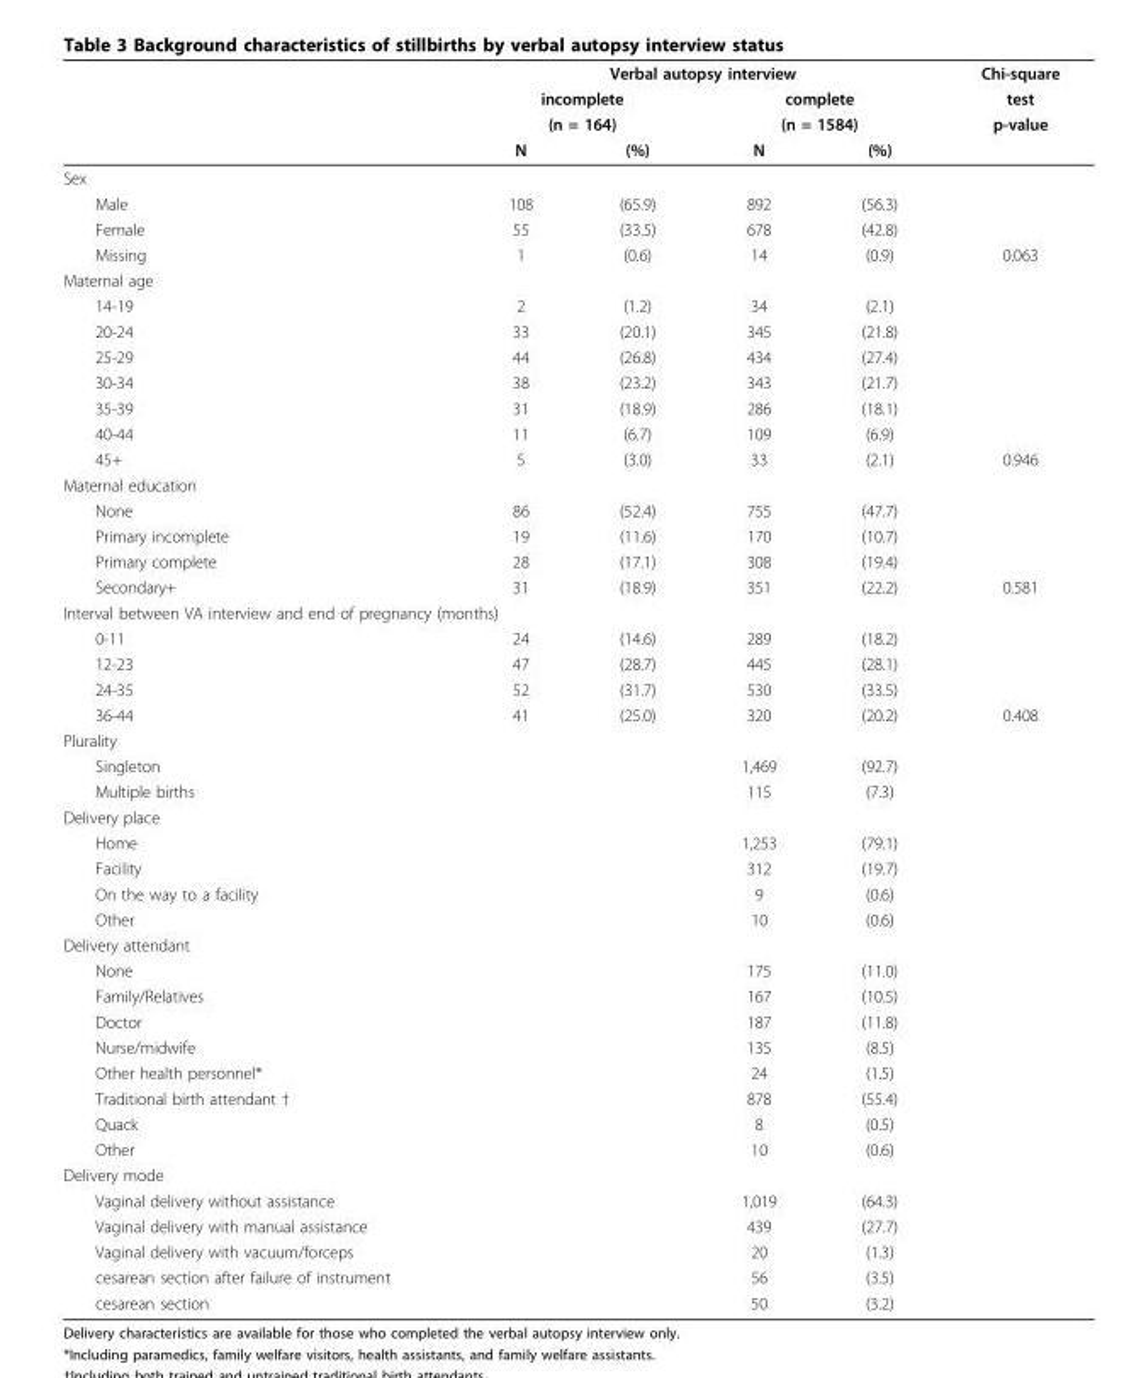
<table><thead><tr><td rowspan="4"></td><td colspan="4">Verbal autopsy interview</td><td rowspan="4">Chi-square test p-value</td></tr><tr><td rowspan="2" colspan="2">incomplete (n = 164)</td><td rowspan="2" colspan="2">complete (n = 1584)</td></tr><tr></tr><tr><td>N</td><td>(%)</td><td>N</td><td>(%)</td></tr></thead><tbody><tr><td colspan="6">Sex</td></tr><tr><td>Male</td><td>108</td><td>(65.9)</td><td>892</td><td>(56.3)</td><td></td></tr><tr><td>Female</td><td>55</td><td>(33.5)</td><td>678</td><td>(42.8)</td><td></td></tr><tr><td>Missing</td><td>1</td><td>(0.6)</td><td>14</td><td>(0.9)</td><td>0.063</td></tr><tr><td colspan="6">Maternal age</td></tr><tr><td>14-19</td><td>2</td><td>(1.2)</td><td>34</td><td>(2.1)</td><td></td></tr><tr><td>20-24</td><td>33</td><td>(20.1)</td><td>345</td><td>(21.8)</td><td></td></tr><tr><td>25-29</td><td>44</td><td>(26.8)</td><td>434</td><td>(27.4)</td><td></td></tr><tr><td>30-34</td><td>38</td><td>(23.2)</td><td>343</td><td>(21.7)</td><td></td></tr><tr><td>35-39</td><td>31</td><td>(18.9)</td><td>286</td><td>(18.1)</td><td></td></tr><tr><td>40-44</td><td>11</td><td>(6.7)</td><td>109</td><td>(6.9)</td><td></td></tr><tr><td>45+</td><td>5</td><td>(3.0)</td><td>33</td><td>(2.1)</td><td>0.946</td></tr><tr><td colspan="6">Maternal education</td></tr><tr><td>None</td><td>86</td><td>(52.4)</td><td>755</td><td>(47.7)</td><td></td></tr><tr><td>Primary incomplete</td><td>19</td><td>(11.6)</td><td>170</td><td>(10.7)</td><td></td></tr><tr><td>Primary complete</td><td>28</td><td>(17.1)</td><td>308</td><td>(19.4)</td><td></td></tr><tr><td>Secondary+</td><td>31</td><td>(18.9)</td><td>351</td><td>(22.2)</td><td>0.581</td></tr><tr><td colspan="6">Interval between VA interview and end of pregnancy (months)</td></tr><tr><td>0-11</td><td>24</td><td>(14.6)</td><td>289</td><td>(18.2)</td><td></td></tr><tr><td>12-23</td><td>47</td><td>(28.7)</td><td>445</td><td>(28.1)</td><td></td></tr><tr><td>24-35</td><td>52</td><td>(31.7)</td><td>530</td><td>(33.5)</td><td></td></tr><tr><td>36-44</td><td>41</td><td>(25.0)</td><td>320</td><td>(20.2)</td><td>0.408</td></tr><tr><td colspan="6">Plurality</td></tr><tr><td>Singleton</td><td></td><td></td><td>1,469</td><td>(92.7)</td><td></td></tr><tr><td>Multiple births</td><td></td><td></td><td>115</td><td>(7.3)</td><td></td></tr><tr><td colspan="6">Delivery place</td></tr><tr><td>Home</td><td></td><td></td><td>1,253</td><td>(79.1)</td><td></td></tr><tr><td>Facility</td><td></td><td></td><td>312</td><td>(19.7)</td><td></td></tr><tr><td>On the way to a facility</td><td></td><td></td><td>9</td><td>(0.6)</td><td></td></tr><tr><td>Other</td><td></td><td></td><td>10</td><td>(0.6)</td><td></td></tr><tr><td colspan="6">Delivery attendant</td></tr><tr><td>None</td><td></td><td></td><td>175</td><td>(11.0)</td><td></td></tr><tr><td>Family/Relatives</td><td></td><td></td><td>167</td><td>(10.5)</td><td></td></tr><tr><td>Doctor</td><td></td><td></td><td>187</td><td>(11.8)</td><td></td></tr><tr><td>Nurse/midwife</td><td></td><td></td><td>135</td><td>(8.5)</td><td></td></tr><tr><td>Other health personnel*</td><td></td><td></td><td>24</td><td>(1.5)</td><td></td></tr><tr><td>Traditional birth attendant †</td><td></td><td></td><td>878</td><td>(55.4)</td><td></td></tr><tr><td>Quack</td><td></td><td></td><td>8</td><td>(0.5)</td><td></td></tr><tr><td>Other</td><td></td><td></td><td>10</td><td>(0.6)</td><td></td></tr><tr><td colspan="6">Delivery mode</td></tr><tr><td>Vaginal delivery without assistance</td><td></td><td></td><td>1,019</td><td>(64.3)</td><td></td></tr><tr><td>Vaginal delivery with manual assistance</td><td></td><td></td><td>439</td><td>(27.7)</td><td></td></tr><tr><td>Vaginal delivery with vacuum/forceps</td><td></td><td></td><td>20</td><td>(1.3)</td><td></td></tr><tr><td>cesarean section after failure of instrument</td><td></td><td></td><td>56</td><td>(3.5)</td><td></td></tr><tr><td>cesarean section</td><td></td><td></td><td>50</td><td>(3.2)</td><td></td></tr></tbody></table>